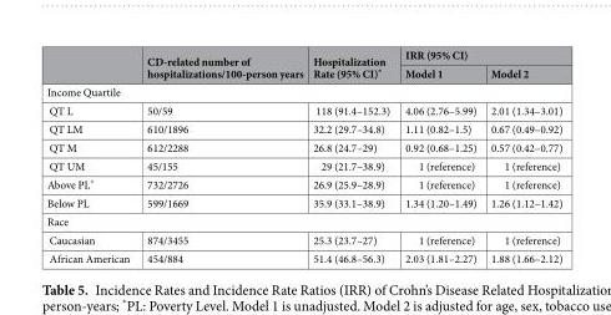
<table><thead><tr><td rowspan="2"></td><td rowspan="2">CD-related number of hospitalizations/100-person years</td><td rowspan="2">Hospitalization Rate (95% CI)*</td><td colspan="2">IRR (95% CI)</td></tr><tr><td>Model 1</td><td>Model 2</td></tr></thead><tbody><tr><td colspan="5">Income Quartile</td></tr><tr><td>QT L</td><td>50/59</td><td>118 (91.4–152.3)</td><td>4.06 (2.76–5.99)</td><td>2.01 (1.34–3.01)</td></tr><tr><td>QT LM</td><td>610/1896</td><td>32.2 (29.7–34.8)</td><td>1.11 (0.82–1.5)</td><td>0.67 (0.49–0.92)</td></tr><tr><td>QT M</td><td>612/2288</td><td>26.8 (24.7–29)</td><td>0.92 (0.68–1.25)</td><td>0.57 (0.42–0.77)</td></tr><tr><td>QT UM</td><td>45/155</td><td>29 (21.7–38.9)</td><td>1 (reference)</td><td>1 (reference)</td></tr><tr><td>Above PL*</td><td>732/2726</td><td>26.9 (25.9–28.9)</td><td>1 (reference)</td><td>1 (reference)</td></tr><tr><td>Below PL</td><td>599/1669</td><td>35.9 (33.1–38.9)</td><td>1.34 (1.20–1.49)</td><td>1.26 (1.12–1.42)</td></tr><tr><td colspan="5">Race</td></tr><tr><td>Caucasian</td><td>874/3455</td><td>25.3 (23.7–27)</td><td>1 (reference)</td><td>1 (reference)</td></tr><tr><td>African American</td><td>454/884</td><td>51.4 (46.8–56.3)</td><td>2.03 (1.81–2.27)</td><td>1.88 (1.66–2.12)</td></tr></tbody></table>